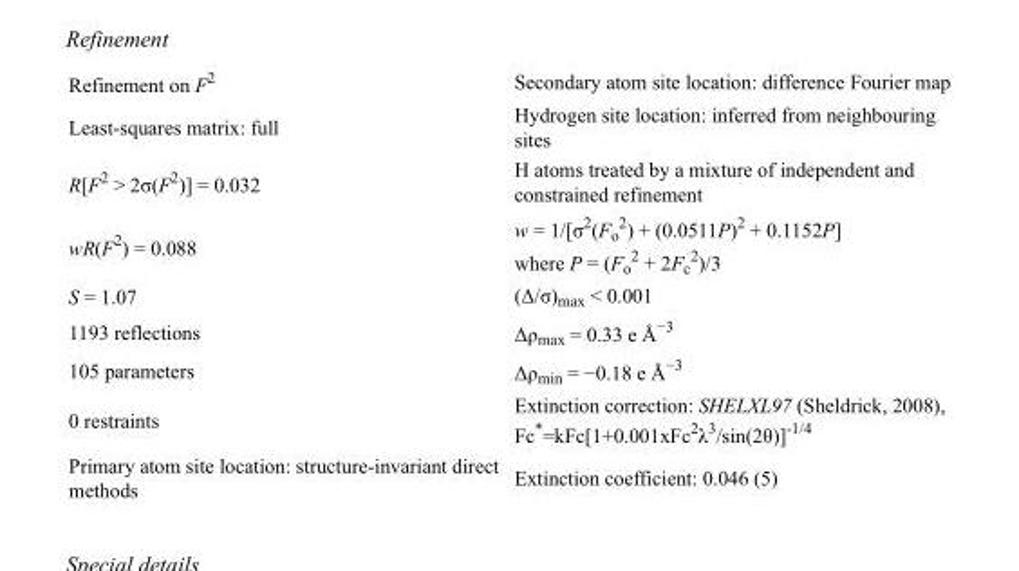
<table><tbody><tr><td>Refinement on F<sup>2</sup></td><td>Secondary atom site location: difference Fourier map</td></tr><tr><td>Least-squares matrix: full</td><td>Hydrogen site location: inferred from neighbouring sites</td></tr><tr><td>R[F<sup>2</sup> &gt; 2σ(F<sup>2</sup>)] = 0.032</td><td>H atoms treated by a mixture of independent and constrained refinement</td></tr><tr><td>wR(F<sup>2</sup>) = 0.088</td><td>w = 1/[σ<sup>2</sup>(F<sub>o</sub> <sup>2</sup>) + (0.0511P)<sup>2</sup> + 0.1152P] where P = (F<sub>o</sub> <sup>2</sup> + 2F<sub>c</sub> <sup>2</sup>)/3</td></tr><tr><td>S = 1.07</td><td>(Δ/σ)<sub>max</sub> &lt; 0.001</td></tr><tr><td>1193 reflections</td><td>Δρ<sub>max</sub> = 0.33 e Å<sup>−3</sup></td></tr><tr><td>105 parameters</td><td>Δρ<sub>min</sub> = −0.18 e Å<sup>−3</sup></td></tr><tr><td>0 restraints</td><td>Extinction correction: SHELXL97 (Sheldrick, 2008), Fc*=kFc[1+0.001xFc<sup>2</sup>λ<sup>3</sup>/sin(2θ)]<sup>-1/4</sup></td></tr><tr><td>Primary atom site location: structure-invariant direct methods</td><td>Extinction coefficient: 0.046 (5)</td></tr></tbody></table>